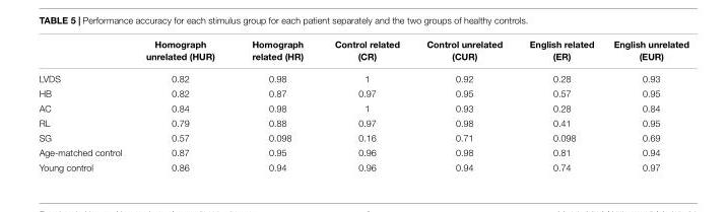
<table><thead><tr><td></td><td>Homograph unrelated (HUR)</td><td>Homograph related (HR)</td><td>Control related (CR)</td><td>Control unrelated (CUR)</td><td>English related (ER)</td><td>English unrelated (EUR)</td></tr></thead><tbody><tr><td>LVDS</td><td>0.82</td><td>0.98</td><td>1</td><td>0.92</td><td>0.28</td><td>0.93</td></tr><tr><td>HB</td><td>0.82</td><td>0.87</td><td>0.97</td><td>0.95</td><td>0.57</td><td>0.95</td></tr><tr><td>AC</td><td>0.84</td><td>0.98</td><td>1</td><td>0.93</td><td>0.28</td><td>0.84</td></tr><tr><td>RL</td><td>0.79</td><td>0.88</td><td>0.97</td><td>0.98</td><td>0.41</td><td>0.95</td></tr><tr><td>SG</td><td>0.57</td><td>0.098</td><td>0.16</td><td>0.71</td><td>0.098</td><td>0.69</td></tr><tr><td>Age-matched control</td><td>0.87</td><td>0.95</td><td>0.96</td><td>0.98</td><td>0.81</td><td>0.94</td></tr><tr><td>Young control</td><td>0.86</td><td>0.94</td><td>0.96</td><td>0.94</td><td>0.74</td><td>0.97</td></tr></tbody></table>